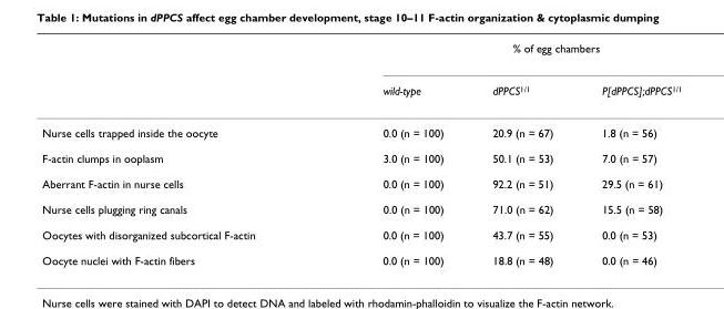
<table><thead><tr><td rowspan="2"></td><td colspan="3">% of egg chambers</td></tr><tr><td>wild-type</td><td>dPPCS<sup>1/1</sup></td><td>P[dPPCS];dPPCS<sup>1/1</sup></td></tr></thead><tbody><tr><td>Nurse cells trapped inside the oocyte</td><td>0.0 (n = 100)</td><td>20.9 (n = 67)</td><td>1.8 (n = 56)</td></tr><tr><td>F-actin clumps in ooplasm</td><td>3.0 (n = 100)</td><td>50.1 (n = 53)</td><td>7.0 (n = 57)</td></tr><tr><td>Aberrant F-actin in nurse cells</td><td>0.0 (n = 100)</td><td>92.2 (n = 51)</td><td>29.5 (n = 61)</td></tr><tr><td>Nurse cells plugging ring canals</td><td>0.0 (n = 100)</td><td>71.0 (n = 62)</td><td>15.5 (n = 58)</td></tr><tr><td>Oocytes with disorganized subcortical F-actin</td><td>0.0 (n = 100)</td><td>43.7 (n = 55)</td><td>0.0 (n = 53)</td></tr><tr><td>Oocyte nuclei with F-actin fibers</td><td>0.0 (n = 100)</td><td>18.8 (n = 48)</td><td>0.0 (n = 46)</td></tr></tbody></table>